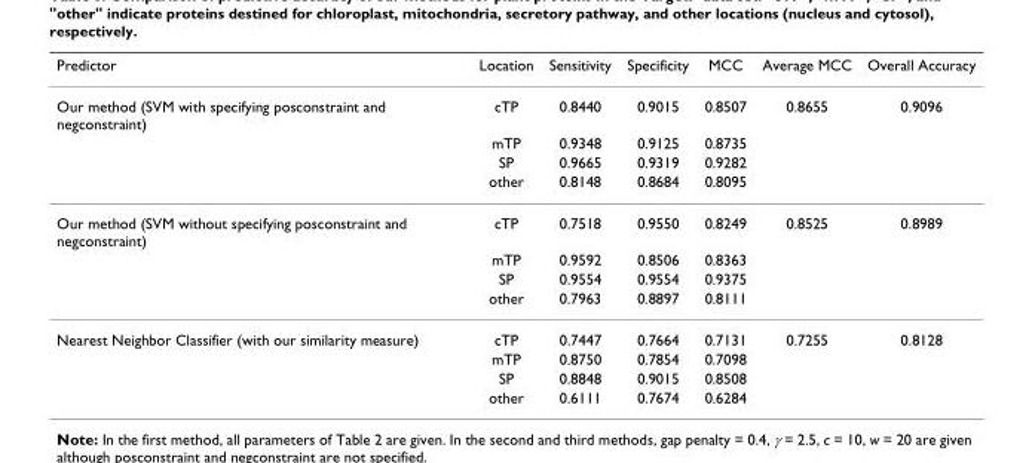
<table><thead><tr><td>Predictor</td><td>Location</td><td>Sensitivity</td><td>Specificity</td><td>MCC</td><td>Average MCC</td><td>Overall Accuracy</td></tr></thead><tbody><tr><td rowspan="4">Our method (SVM with specifying posconstraint and negconstraint)</td><td>cTP</td><td>0.8440</td><td>0.9015</td><td>0.8507</td><td>0.8655</td><td>0.9096</td></tr><tr><td>mTP</td><td>0.9348</td><td>0.9125</td><td>0.8735</td><td></td><td></td></tr><tr><td>SP</td><td>0.9665</td><td>0.9319</td><td>0.9282</td><td></td><td></td></tr><tr><td>other</td><td>0.8148</td><td>0.8684</td><td>0.8095</td><td></td><td></td></tr><tr><td rowspan="4">Our method (SVM without specifying posconstraint and negconstraint)</td><td>cTP</td><td>0.7518</td><td>0.9550</td><td>0.8249</td><td>0.8525</td><td>0.8989</td></tr><tr><td>mTP</td><td>0.9592</td><td>0.8506</td><td>0.8363</td><td></td><td></td></tr><tr><td>SP</td><td>0.9554</td><td>0.9554</td><td>0.9375</td><td></td><td></td></tr><tr><td>other</td><td>0.7963</td><td>0.8897</td><td>0.8111</td><td></td><td></td></tr><tr><td rowspan="4">Nearest Neighbor Classifier (with our similarity measure)</td><td>cTP</td><td>0.7447</td><td>0.7664</td><td>0.7131</td><td>0.7255</td><td>0.8128</td></tr><tr><td>mTP</td><td>0.8750</td><td>0.7854</td><td>0.7098</td><td></td><td></td></tr><tr><td>SP</td><td>0.8848</td><td>0.9015</td><td>0.8508</td><td></td><td></td></tr><tr><td>other</td><td>0.6111</td><td>0.7674</td><td>0.6284</td><td></td><td></td></tr></tbody></table>